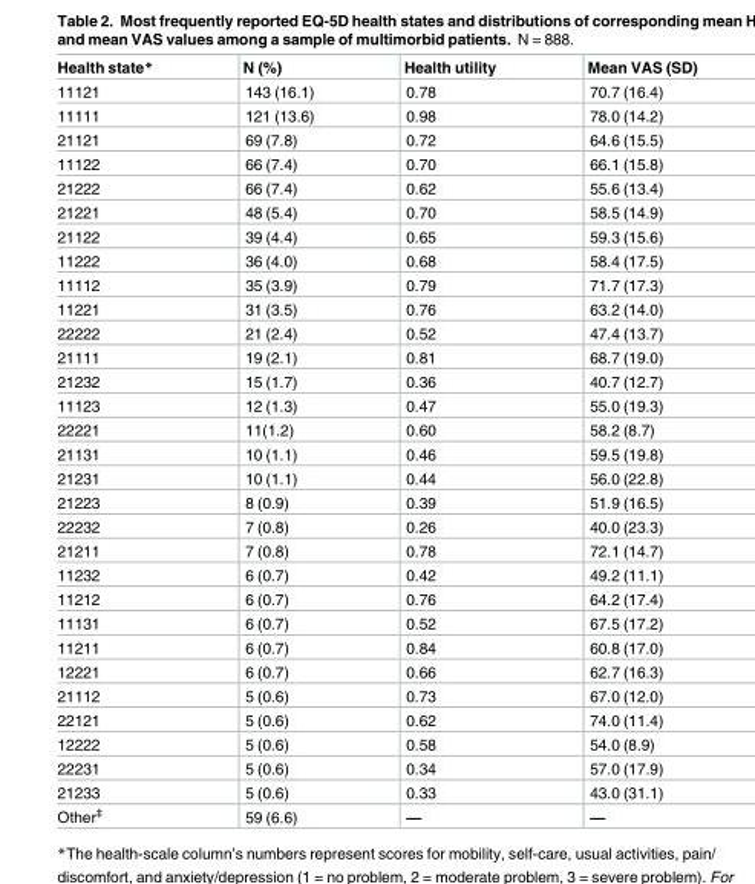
<table><thead><tr><td>Health state*</td><td>N (%)</td><td>Health utility</td><td>Mean VAS (SD)</td></tr></thead><tbody><tr><td>11121</td><td>143 (16.1)</td><td>0.78</td><td>70.7 (16.4)</td></tr><tr><td>11111</td><td>121 (13.6)</td><td>0.98</td><td>78.0 (14.2)</td></tr><tr><td>21121</td><td>69 (7.8)</td><td>0.72</td><td>64.6 (15.5)</td></tr><tr><td>11122</td><td>66 (7.4)</td><td>0.70</td><td>66.1 (15.8)</td></tr><tr><td>21222</td><td>66 (7.4)</td><td>0.62</td><td>55.6 (13.4)</td></tr><tr><td>21221</td><td>48 (5.4)</td><td>0.70</td><td>58.5 (14.9)</td></tr><tr><td>21122</td><td>39 (4.4)</td><td>0.65</td><td>59.3 (15.6)</td></tr><tr><td>11222</td><td>36 (4.0)</td><td>0.68</td><td>58.4 (17.5)</td></tr><tr><td>11112</td><td>35 (3.9)</td><td>0.79</td><td>71.7 (17.3)</td></tr><tr><td>11221</td><td>31 (3.5)</td><td>0.76</td><td>63.2 (14.0)</td></tr><tr><td>22222</td><td>21 (2.4)</td><td>0.52</td><td>47.4 (13.7)</td></tr><tr><td>21111</td><td>19 (2.1)</td><td>0.81</td><td>68.7 (19.0)</td></tr><tr><td>21232</td><td>15 (1.7)</td><td>0.36</td><td>40.7 (12.7)</td></tr><tr><td>11123</td><td>12 (1.3)</td><td>0.47</td><td>55.0 (19.3)</td></tr><tr><td>22221</td><td>11(1.2)</td><td>0.60</td><td>58.2 (8.7)</td></tr><tr><td>21131</td><td>10 (1.1)</td><td>0.46</td><td>59.5 (19.8)</td></tr><tr><td>21231</td><td>10 (1.1)</td><td>0.44</td><td>56.0 (22.8)</td></tr><tr><td>21223</td><td>8 (0.9)</td><td>0.39</td><td>51.9 (16.5)</td></tr><tr><td>22232</td><td>7 (0.8)</td><td>0.26</td><td>40.0 (23.3)</td></tr><tr><td>21211</td><td>7 (0.8)</td><td>0.78</td><td>72.1 (14.7)</td></tr><tr><td>11232</td><td>6 (0.7)</td><td>0.42</td><td>49.2 (11.1)</td></tr><tr><td>11212</td><td>6 (0.7)</td><td>0.76</td><td>64.2 (17.4)</td></tr><tr><td>11131</td><td>6 (0.7)</td><td>0.52</td><td>67.5 (17.2)</td></tr><tr><td>11211</td><td>6 (0.7)</td><td>0.84</td><td>60.8 (17.0)</td></tr><tr><td>12221</td><td>6 (0.7)</td><td>0.66</td><td>62.7 (16.3)</td></tr><tr><td>21112</td><td>5 (0.6)</td><td>0.73</td><td>67.0 (12.0)</td></tr><tr><td>22121</td><td>5 (0.6)</td><td>0.62</td><td>74.0 (11.4)</td></tr><tr><td>12222</td><td>5 (0.6)</td><td>0.58</td><td>54.0 (8.9)</td></tr><tr><td>22231</td><td>5 (0.6)</td><td>0.34</td><td>57.0 (17.9)</td></tr><tr><td>21233</td><td>5 (0.6)</td><td>0.33</td><td>43.0 (31.1)</td></tr><tr><td>Other‡</td><td>59 (6.6)</td><td>—</td><td>—</td></tr></tbody></table>